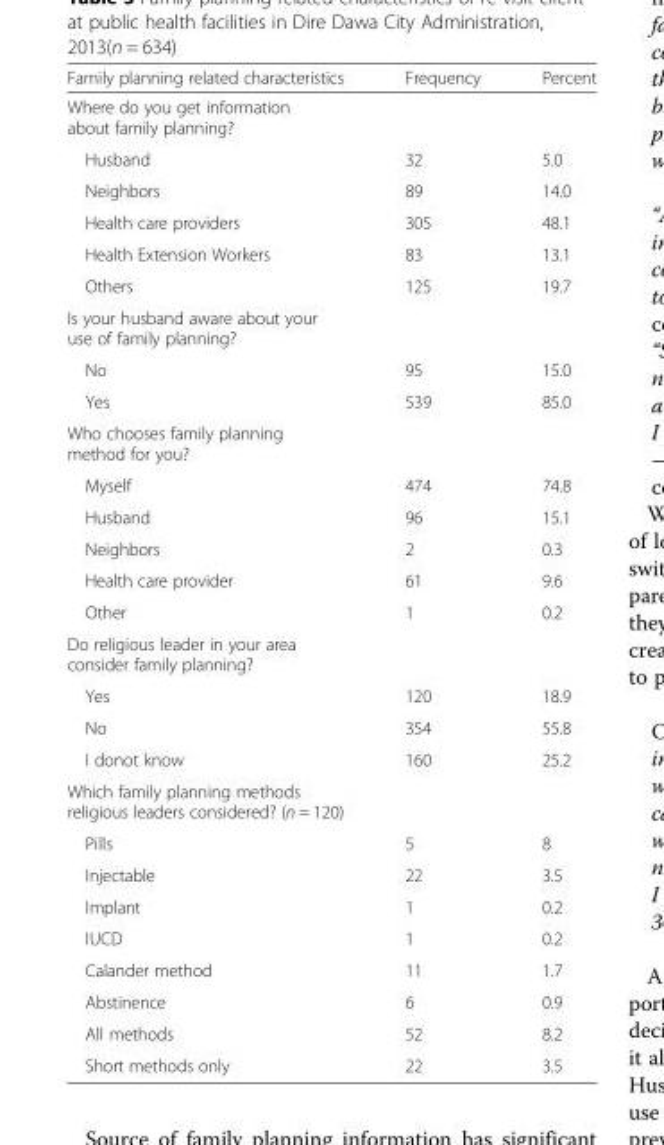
<table><thead><tr><td>Family planning related characteristics</td><td>Frequency</td><td>Percent</td></tr></thead><tbody><tr><td colspan="3">Where do you get information about family planning?</td></tr><tr><td>Husband</td><td>32</td><td>5.0</td></tr><tr><td>Neighbors</td><td>89</td><td>14.0</td></tr><tr><td>Health care providers</td><td>305</td><td>48.1</td></tr><tr><td>Health Extension Workers</td><td>83</td><td>13.1</td></tr><tr><td>Others</td><td>125</td><td>19.7</td></tr><tr><td colspan="3">Is your husband aware about your use of family planning?</td></tr><tr><td>No</td><td>95</td><td>15.0</td></tr><tr><td>Yes</td><td>539</td><td>85.0</td></tr><tr><td colspan="3">Who chooses family planning method for you?</td></tr><tr><td>Myself</td><td>474</td><td>74.8</td></tr><tr><td>Husband</td><td>96</td><td>15.1</td></tr><tr><td>Neighbors</td><td>2</td><td>0.3</td></tr><tr><td>Health care provider</td><td>61</td><td>9.6</td></tr><tr><td>Other</td><td>1</td><td>0.2</td></tr><tr><td colspan="3">Do religious leader in your area consider family planning?</td></tr><tr><td>Yes</td><td>120</td><td>18.9</td></tr><tr><td>No</td><td>354</td><td>55.8</td></tr><tr><td>I donot know</td><td>160</td><td>25.2</td></tr><tr><td colspan="3">Which family planning methods religious leaders considered? (n = 120)</td></tr><tr><td>Pills</td><td>5</td><td>8</td></tr><tr><td>Injectable</td><td>22</td><td>3.5</td></tr><tr><td>Implant</td><td>1</td><td>0.2</td></tr><tr><td>IUCD</td><td>1</td><td>0.2</td></tr><tr><td>Calander method</td><td>11</td><td>1.7</td></tr><tr><td>Abstinence</td><td>6</td><td>0.9</td></tr><tr><td>All methods</td><td>52</td><td>8.2</td></tr><tr><td>Short methods only</td><td>22</td><td>3.5</td></tr></tbody></table>